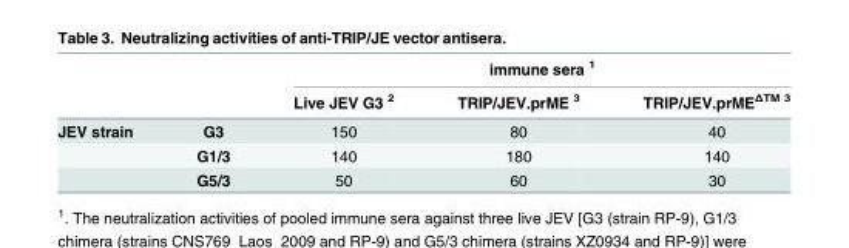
<table><thead><tr><td rowspan="2"></td><td rowspan="2"></td><td colspan="3">immune sera <sup>1</sup></td></tr><tr><td>Live JEV G3 <sup>2</sup></td><td>TRIP/JEV.prME <sup>3</sup></td><td>TRIP/JEV.prME<sup>ΔTM 3</sup></td></tr></thead><tbody><tr><td rowspan="3">JEV strain</td><td>G3</td><td>150</td><td>80</td><td>40</td></tr><tr><td>G1/3</td><td>140</td><td>180</td><td>140</td></tr><tr><td>G5/3</td><td>50</td><td>60</td><td>30</td></tr></tbody></table>